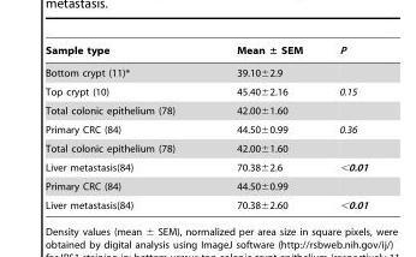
<table><thead><tr><td>Sample type</td><td>Mean ± SEM</td><td>P</td></tr></thead><tbody><tr><td>Bottom crypt (11)*</td><td>39.10±2.9</td><td></td></tr><tr><td>Top crypt (10)</td><td>45.40±2.16</td><td>0.15</td></tr><tr><td>Total colonic epithelium (78)</td><td>42.00±1.60</td><td></td></tr><tr><td>Primary CRC (84)</td><td>44.50±0.99</td><td>0.36</td></tr><tr><td>Total colonic epithelium (78)</td><td>42.00±1.60</td><td></td></tr><tr><td>Liver metastasis(84)</td><td>70.38±2.6</td><td>&lt;0.01</td></tr><tr><td>Primary CRC (84)</td><td>44.50±0.99</td><td></td></tr><tr><td>Liver metastasis(84)</td><td>70.38±2.60</td><td>&lt;0.01</td></tr></tbody></table>